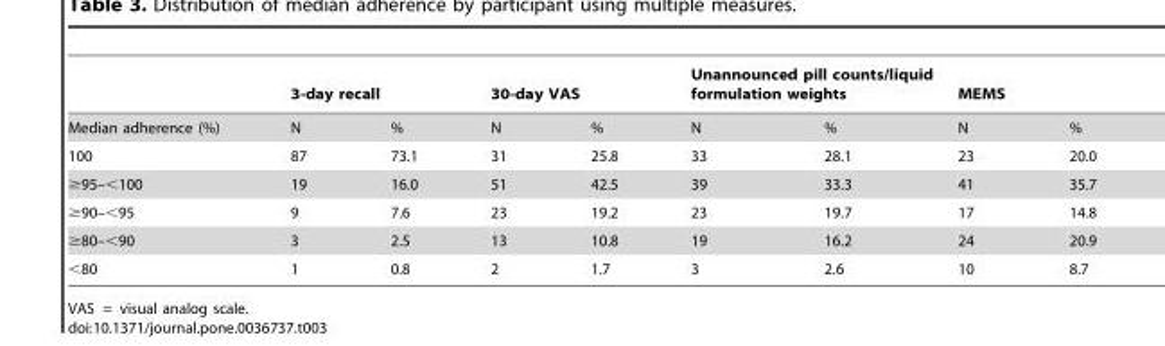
<table><thead><tr><td rowspan="2">Median adherence (%)</td><td colspan="2">3-day recall</td><td colspan="2">30-day VAS</td><td colspan="2">Unannounced pill counts/liquid formulation weights</td><td colspan="2">MEMS</td></tr><tr><td>N</td><td>%</td><td>N</td><td>%</td><td>N</td><td>%</td><td>N</td><td>%</td></tr></thead><tbody><tr><td>100</td><td>87</td><td>73.1</td><td>31</td><td>25.8</td><td>33</td><td>28.1</td><td>23</td><td>20.0</td></tr><tr><td>≥95–&lt;100</td><td>19</td><td>16.0</td><td>51</td><td>42.5</td><td>39</td><td>33.3</td><td>41</td><td>35.7</td></tr><tr><td>≥90–&lt;95</td><td>9</td><td>7.6</td><td>23</td><td>19.2</td><td>23</td><td>19.7</td><td>17</td><td>14.8</td></tr><tr><td>≥80–&lt;90</td><td>3</td><td>2.5</td><td>13</td><td>10.8</td><td>19</td><td>16.2</td><td>24</td><td>20.9</td></tr><tr><td>&lt;80</td><td>1</td><td>0.8</td><td>2</td><td>1.7</td><td>3</td><td>2.6</td><td>10</td><td>8.7</td></tr></tbody></table>